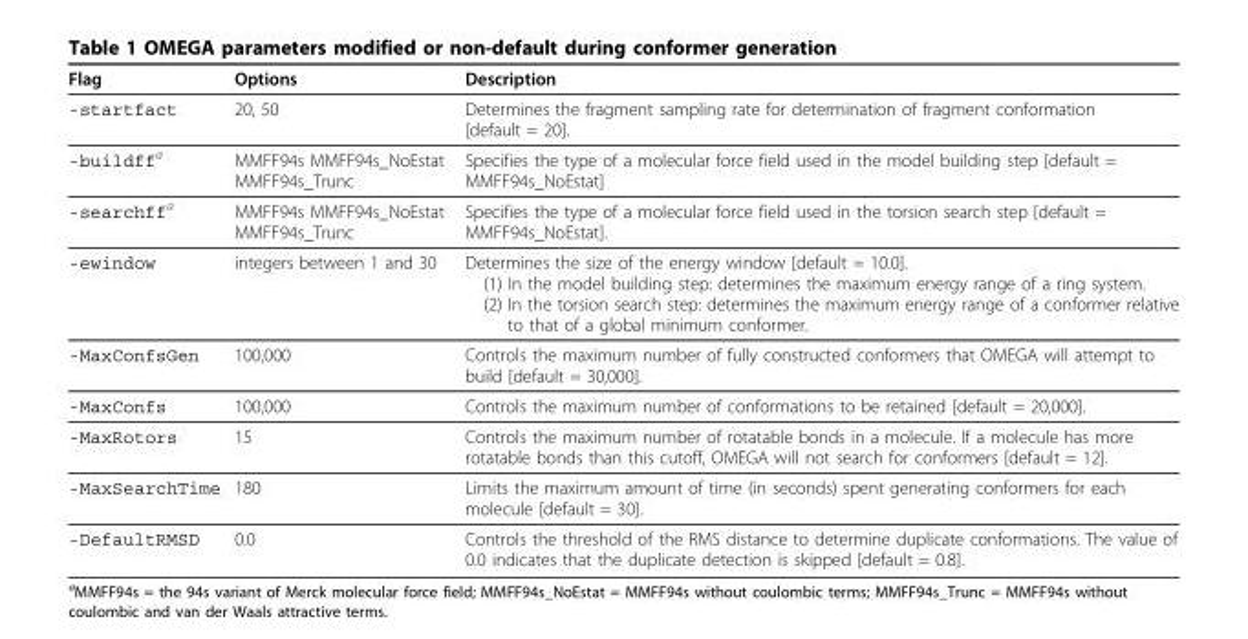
<table><thead><tr><td>Flag</td><td>Options</td><td>Description</td></tr></thead><tbody><tr><td>-startfact</td><td>20, 50</td><td>Determines the fragment sampling rate for determination of fragment conformation [default = 20].</td></tr><tr><td>-buildff<sup>a</sup></td><td>MMFF94s MMFF94s_NoEstat MMFF94s_Trunc</td><td>Specifies the type of a molecular force field used in the model building step [default = MMFF94s_NoEstat]</td></tr><tr><td>-searchff<sup>a</sup></td><td>MMFF94s MMFF94s_NoEstat MMFF94s_Trunc</td><td>Specifies the type of a molecular force field used in the torsion search step [default = MMFF94s_NoEstat].</td></tr><tr><td>-ewindow</td><td>integers between 1 and 30</td><td>Determines the size of the energy window [default = 10.0]. (1) In the model building step: determines the maximum energy range of a ring system. (2) In the torsion search step: determines the maximum energy range of a conformer relative to that of a global minimum conformer.</td></tr><tr><td>-MaxConfsGen</td><td>100,000</td><td>Controls the maximum number of fully constructed conformers that OMEGA will attempt to build [default = 30,000].</td></tr><tr><td>-MaxConfs</td><td>100,000</td><td>Controls the maximum number of conformations to be retained [default = 20,000].</td></tr><tr><td>-MaxRotors</td><td>15</td><td>Controls the maximum number of rotatable bonds in a molecule. If a molecule has more rotatable bonds than this cutoff, OMEGA will not search for conformers [default = 12].</td></tr><tr><td>-MaxSearchTime</td><td>180</td><td>Limits the maximum amount of time (in seconds) spent generating conformers for each molecule [default = 30].</td></tr><tr><td>-DefaultRMSD</td><td>0.0</td><td>Controls the threshold of the RMS distance to determine duplicate conformations. The value of 0.0 indicates that the duplicate detection is skipped [default = 0.8].</td></tr></tbody></table>